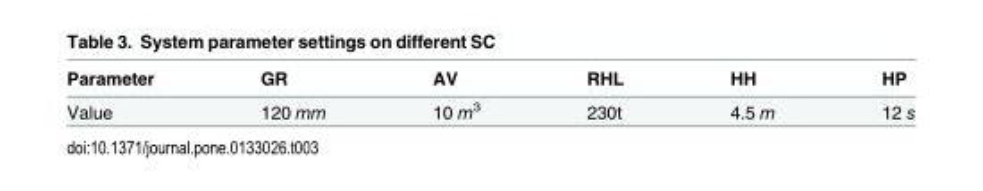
<table><thead><tr><td>Parameter</td><td>GR</td><td>AV</td><td>RHL</td><td>HH</td><td>HP</td></tr></thead><tbody><tr><td>Value</td><td>120 mm</td><td>10 m<sup>3</sup></td><td>230t</td><td>4.5 m</td><td>12 s</td></tr></tbody></table>